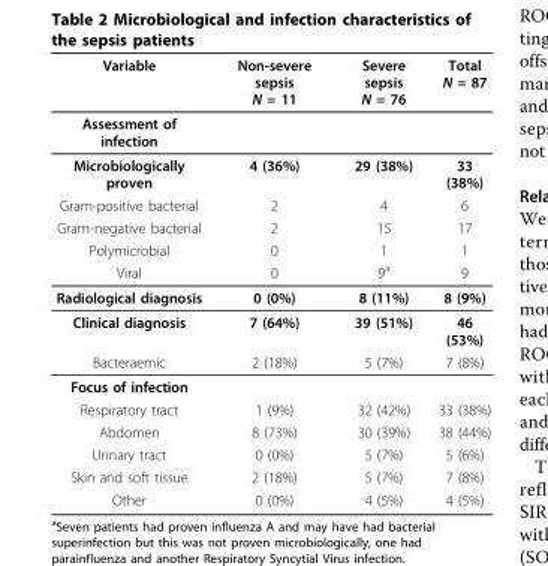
<table><thead><tr><td>Variable</td><td>Non-severe sepsis N = 11</td><td>Severe sepsis N = 76</td><td>Total N = 87</td></tr></thead><tbody><tr><td colspan="4">Assessment of infection</td></tr><tr><td>Microbiologically proven</td><td>4 (36%)</td><td>29 (38%)</td><td>33 (38%)</td></tr><tr><td>Gram-positive bacterial</td><td>2</td><td>4</td><td>6</td></tr><tr><td>Gram-negative bacterial</td><td>2</td><td>15</td><td>17</td></tr><tr><td>Polymicrobial</td><td>0</td><td>1</td><td>1</td></tr><tr><td>Viral</td><td>0</td><td>9<sup>a</sup></td><td>9</td></tr><tr><td>Radiological diagnosis</td><td>0 (0%)</td><td>8 (11%)</td><td>8 (9%)</td></tr><tr><td>Clinical diagnosis</td><td>7 (64%)</td><td>39 (51%)</td><td>46 (53%)</td></tr><tr><td>Bacteraemic</td><td>2 (18%)</td><td>5 (7%)</td><td>7 (8%)</td></tr><tr><td colspan="4">Focus of infection</td></tr><tr><td>Respiratory tract</td><td>1 (9%)</td><td>32 (42%)</td><td>33 (38%)</td></tr><tr><td>Abdomen</td><td>8 (73%)</td><td>30 (39%)</td><td>38 (44%)</td></tr><tr><td>Urinary tract</td><td>0 (0%)</td><td>5 (7%)</td><td>5 (6%)</td></tr><tr><td>Skin and soft tissue</td><td>2 (18%)</td><td>5 (7%)</td><td>7 (8%)</td></tr><tr><td>Other</td><td>0 (0%)</td><td>4 (5%)</td><td>4 (5%)</td></tr></tbody></table>